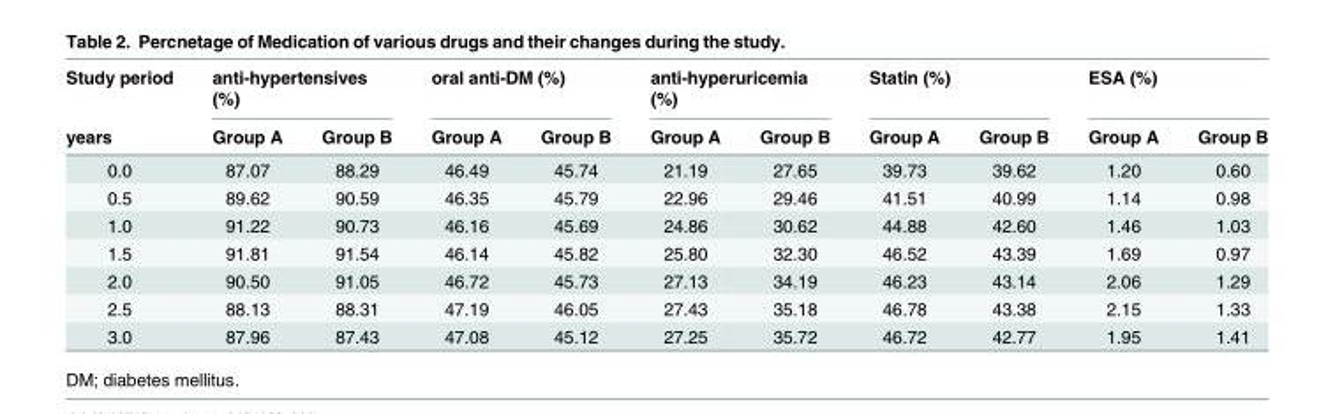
<table><thead><tr><td rowspan="2">Study period years</td><td colspan="2">anti-hypertensives (%)</td><td colspan="2">oral anti-DM (%)</td><td colspan="2">anti-hyperuricemia (%)</td><td colspan="2">Statin (%)</td><td colspan="2">ESA (%)</td></tr><tr><td>Group A</td><td>Group B</td><td>Group A</td><td>Group B</td><td>Group A</td><td>Group B</td><td>Group A</td><td>Group B</td><td>Group A</td><td>Group B</td></tr></thead><tbody><tr><td>0.0</td><td>87.07</td><td>88.29</td><td>46.49</td><td>45.74</td><td>21.19</td><td>27.65</td><td>39.73</td><td>39.62</td><td>1.20</td><td>0.60</td></tr><tr><td>0.5</td><td>89.62</td><td>90.59</td><td>46.35</td><td>45.79</td><td>22.96</td><td>29.46</td><td>41.51</td><td>40.99</td><td>1.14</td><td>0.98</td></tr><tr><td>1.0</td><td>91.22</td><td>90.73</td><td>46.16</td><td>45.69</td><td>24.86</td><td>30.62</td><td>44.88</td><td>42.60</td><td>1.46</td><td>1.03</td></tr><tr><td>1.5</td><td>91.81</td><td>91.54</td><td>46.14</td><td>45.82</td><td>25.80</td><td>32.30</td><td>46.52</td><td>43.39</td><td>1.69</td><td>0.97</td></tr><tr><td>2.0</td><td>90.50</td><td>91.05</td><td>46.72</td><td>45.73</td><td>27.13</td><td>34.19</td><td>46.23</td><td>43.14</td><td>2.06</td><td>1.29</td></tr><tr><td>2.5</td><td>88.13</td><td>88.31</td><td>47.19</td><td>46.05</td><td>27.43</td><td>35.18</td><td>46.78</td><td>43.38</td><td>2.15</td><td>1.33</td></tr><tr><td>3.0</td><td>87.96</td><td>87.43</td><td>47.08</td><td>45.12</td><td>27.25</td><td>35.72</td><td>46.72</td><td>42.77</td><td>1.95</td><td>1.41</td></tr></tbody></table>